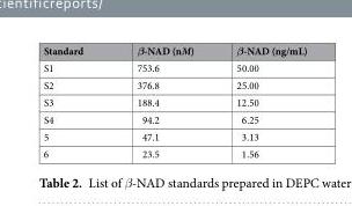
<table><thead><tr><td>Standard</td><td>β-NAD (nM)</td><td>β-NAD (ng/mL)</td></tr></thead><tbody><tr><td>S1</td><td>753.6</td><td>50.00</td></tr><tr><td>S2</td><td>376.8</td><td>25.00</td></tr><tr><td>S3</td><td>188.4</td><td>12.50</td></tr><tr><td>S4</td><td>94.2</td><td>6.25</td></tr><tr><td>5</td><td>47.1</td><td>3.13</td></tr><tr><td>6</td><td>23.5</td><td>1.56</td></tr></tbody></table>